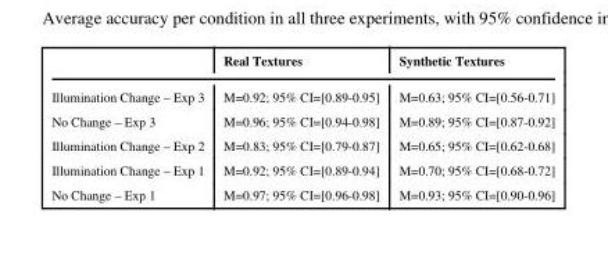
<table><thead><tr><td></td><td>Real Textures</td><td>Synthetic Textures</td></tr></thead><tbody><tr><td>Illumination Change – Exp 3</td><td>M=0.92; 95% CI=[0.89-0.95]</td><td>M=0.63; 95% CI=[0.56-0.71]</td></tr><tr><td>No Change – Exp 3</td><td>M=0.96; 95% CI=[0.94-0.98]</td><td>M=0.89; 95% CI=[0.87-0.92]</td></tr><tr><td>Illumination Change – Exp 2</td><td>M=0.83; 95% CI=[0.79-0.87]</td><td>M=0.65; 95% CI=[0.62-0.68]</td></tr><tr><td>Illumination Change – Exp 1</td><td>M=0.92; 95% CI=[0.89-0.94]</td><td>M=0.70; 95% CI=[0.68-0.72]</td></tr><tr><td>No Change – Exp 1</td><td>M=0.97; 95% CI=[0.96-0.98]</td><td>M=0.93; 95% CI=[0.90-0.96]</td></tr></tbody></table>